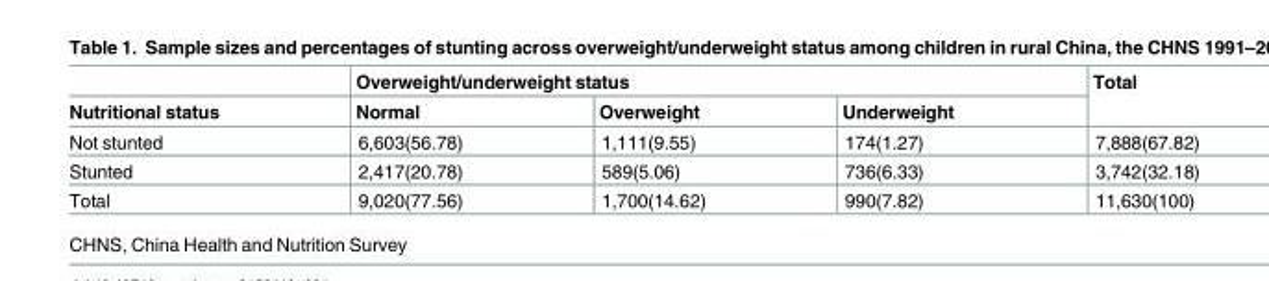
<table><thead><tr><td rowspan="2">Nutritional status</td><td colspan="3">Overweight/underweight status</td><td rowspan="2">Total</td></tr><tr><td>Normal</td><td>Overweight</td><td>Underweight</td></tr></thead><tbody><tr><td>Not stunted</td><td>6,603(56.78)</td><td>1,111(9.55)</td><td>174(1.27)</td><td>7,888(67.82)</td></tr><tr><td>Stunted</td><td>2,417(20.78)</td><td>589(5.06)</td><td>736(6.33)</td><td>3,742(32.18)</td></tr><tr><td>Total</td><td>9,020(77.56)</td><td>1,700(14.62)</td><td>990(7.82)</td><td>11,630(100)</td></tr></tbody></table>